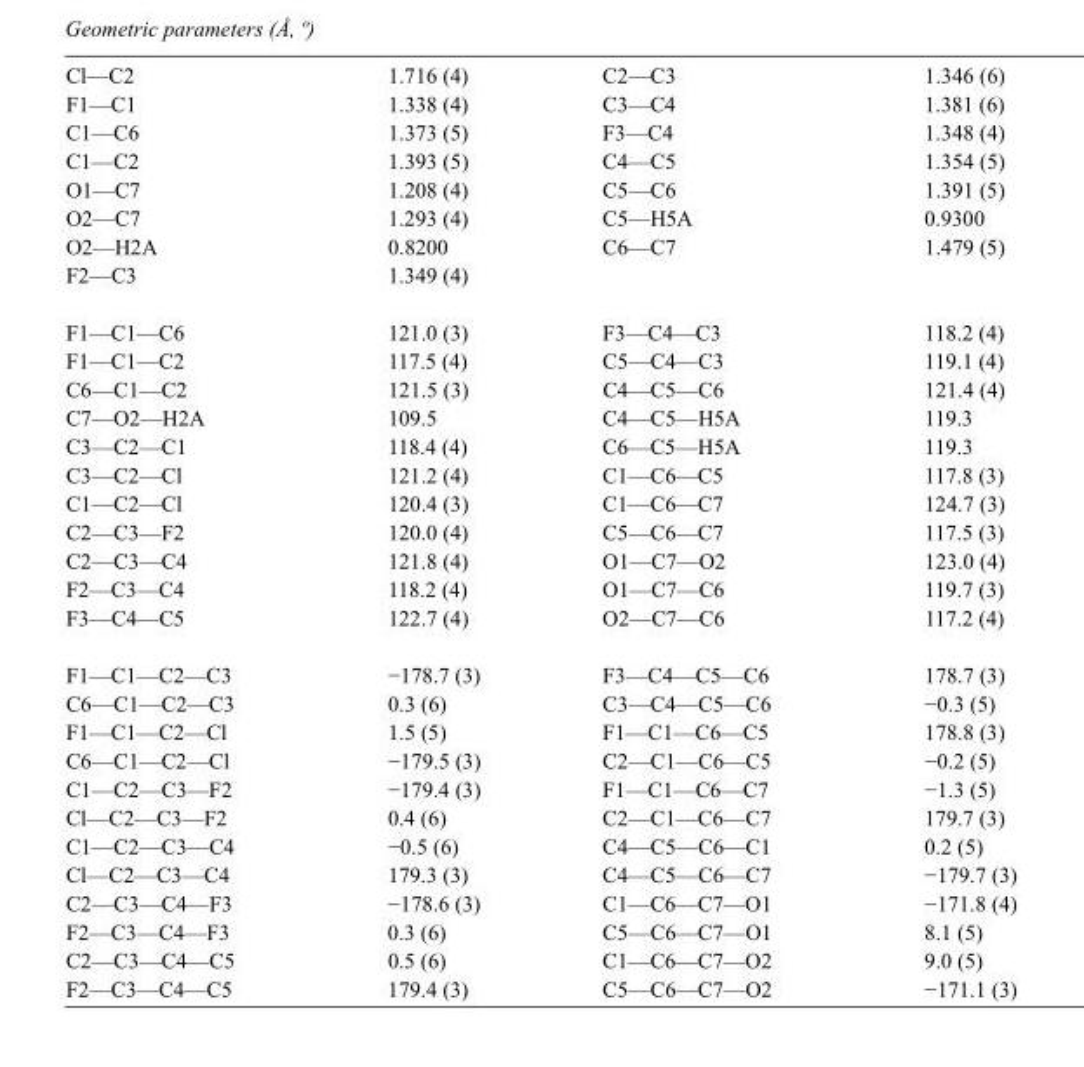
<table><tbody><tr><td>Cl—C2</td><td>1.716 (4)</td><td>C2—C3</td><td>1.346 (6)</td></tr><tr><td>F1—C1</td><td>1.338 (4)</td><td>C3—C4</td><td>1.381 (6)</td></tr><tr><td>C1—C6</td><td>1.373 (5)</td><td>F3—C4</td><td>1.348 (4)</td></tr><tr><td>C1—C2</td><td>1.393 (5)</td><td>C4—C5</td><td>1.354 (5)</td></tr><tr><td>O1—C7</td><td>1.208 (4)</td><td>C5—C6</td><td>1.391 (5)</td></tr><tr><td>O2—C7</td><td>1.293 (4)</td><td>C5—H5A</td><td>0.9300</td></tr><tr><td>O2—H2A</td><td>0.8200</td><td>C6—C7</td><td>1.479 (5)</td></tr><tr><td>F2—C3</td><td>1.349 (4)</td><td></td><td></td></tr><tr><td>F1—C1—C6</td><td>121.0 (3)</td><td>F3—C4—C3</td><td>118.2 (4)</td></tr><tr><td>F1—C1—C2</td><td>117.5 (4)</td><td>C5—C4—C3</td><td>119.1 (4)</td></tr><tr><td>C6—C1—C2</td><td>121.5 (3)</td><td>C4—C5—C6</td><td>121.4 (4)</td></tr><tr><td>C7—O2—H2A</td><td>109.5</td><td>C4—C5—H5A</td><td>119.3</td></tr><tr><td>C3—C2—C1</td><td>118.4 (4)</td><td>C6—C5—H5A</td><td>119.3</td></tr><tr><td>C3—C2—Cl</td><td>121.2 (4)</td><td>C1—C6—C5</td><td>117.8 (3)</td></tr><tr><td>C1—C2—Cl</td><td>120.4 (3)</td><td>C1—C6—C7</td><td>124.7 (3)</td></tr><tr><td>C2—C3—F2</td><td>120.0 (4)</td><td>C5—C6—C7</td><td>117.5 (3)</td></tr><tr><td>C2—C3—C4</td><td>121.8 (4)</td><td>O1—C7—O2</td><td>123.0 (4)</td></tr><tr><td>F2—C3—C4</td><td>118.2 (4)</td><td>O1—C7—C6</td><td>119.7 (3)</td></tr><tr><td>F3—C4—C5</td><td>122.7 (4)</td><td>O2—C7—C6</td><td>117.2 (4)</td></tr><tr><td>F1—C1—C2—C3</td><td>−178.7 (3)</td><td>F3—C4—C5—C6</td><td>178.7 (3)</td></tr><tr><td>C6—C1—C2—C3</td><td>0.3 (6)</td><td>C3—C4—C5—C6</td><td>−0.3 (5)</td></tr><tr><td>F1—C1—C2—Cl</td><td>1.5 (5)</td><td>F1—C1—C6—C5</td><td>178.8 (3)</td></tr><tr><td>C6—C1—C2—Cl</td><td>−179.5 (3)</td><td>C2—C1—C6—C5</td><td>−0.2 (5)</td></tr><tr><td>C1—C2—C3—F2</td><td>−179.4 (3)</td><td>F1—C1—C6—C7</td><td>−1.3 (5)</td></tr><tr><td>Cl—C2—C3—F2</td><td>0.4 (6)</td><td>C2—C1—C6—C7</td><td>179.7 (3)</td></tr><tr><td>C1—C2—C3—C4</td><td>−0.5 (6)</td><td>C4—C5—C6—C1</td><td>0.2 (5)</td></tr><tr><td>Cl—C2—C3—C4</td><td>179.3 (3)</td><td>C4—C5—C6—C7</td><td>−179.7 (3)</td></tr><tr><td>C2—C3—C4—F3</td><td>−178.6 (3)</td><td>C1—C6—C7—O1</td><td>−171.8 (4)</td></tr><tr><td>F2—C3—C4—F3</td><td>0.3 (6)</td><td>C5—C6—C7—O1</td><td>8.1 (5)</td></tr><tr><td>C2—C3—C4—C5</td><td>0.5 (6)</td><td>C1—C6—C7—O2</td><td>9.0 (5)</td></tr><tr><td>F2—C3—C4—C5</td><td>179.4 (3)</td><td>C5—C6—C7—O2</td><td>−171.1 (3)</td></tr></tbody></table>